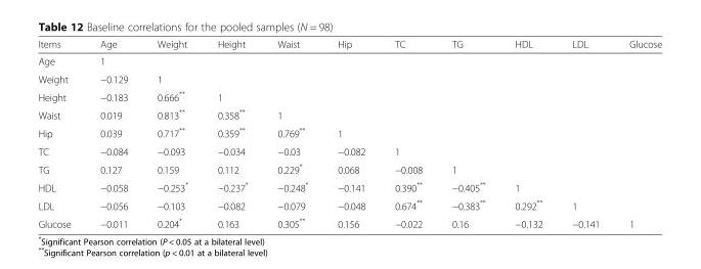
<table><thead><tr><td>Items</td><td>Age</td><td>Weight</td><td>Height</td><td>Waist</td><td>Hip</td><td>TC</td><td>TG</td><td>HDL</td><td>LDL</td><td>Glucose</td></tr></thead><tbody><tr><td>Age</td><td>1</td><td></td><td></td><td></td><td></td><td></td><td></td><td></td><td></td><td></td></tr><tr><td>Weight</td><td>−0.129</td><td>1</td><td></td><td></td><td></td><td></td><td></td><td></td><td></td><td></td></tr><tr><td>Height</td><td>−0.183</td><td>0.666**</td><td>1</td><td></td><td></td><td></td><td></td><td></td><td></td><td></td></tr><tr><td>Waist</td><td>0.019</td><td>0.813**</td><td>0.358**</td><td>1</td><td></td><td></td><td></td><td></td><td></td><td></td></tr><tr><td>Hip</td><td>0.039</td><td>0.717**</td><td>0.359**</td><td>0.769**</td><td>1</td><td></td><td></td><td></td><td></td><td></td></tr><tr><td>TC</td><td>−0.084</td><td>−0.093</td><td>−0.034</td><td>−0.03</td><td>−0.082</td><td>1</td><td></td><td></td><td></td><td></td></tr><tr><td>TG</td><td>0.127</td><td>0.159</td><td>0.112</td><td>0.229*</td><td>0.068</td><td>−0.008</td><td>1</td><td></td><td></td><td></td></tr><tr><td>HDL</td><td>−0.058</td><td>−0.253*</td><td>−0.237*</td><td>−0.248*</td><td>−0.141</td><td>0.390**</td><td>−0.405**</td><td>1</td><td></td><td></td></tr><tr><td>LDL</td><td>−0.056</td><td>−0.103</td><td>−0.082</td><td>−0.079</td><td>−0.048</td><td>0.674**</td><td>−0.383**</td><td>0.292**</td><td>1</td><td></td></tr><tr><td>Glucose</td><td>−0.011</td><td>0.204*</td><td>0.163</td><td>0.305**</td><td>0.156</td><td>−0.022</td><td>0.16</td><td>−0.132</td><td>−0.141</td><td>1</td></tr></tbody></table>